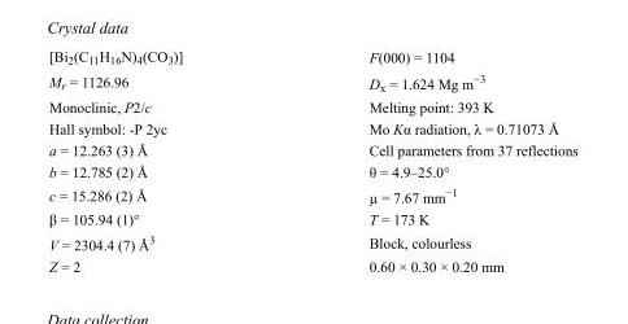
<table><tbody><tr><td>[Bi<sub>2</sub>(C<sub>11</sub>H<sub>16</sub>N)<sub>4</sub>(CO<sub>3</sub>)]</td><td>F(000) = 1104</td></tr><tr><td>M<sub>r</sub> = 1126.96</td><td>D<sub>x</sub> = 1.624 Mg m<sup>−3</sup></td></tr><tr><td>Monoclinic, P2/c</td><td>Melting point: 393 K</td></tr><tr><td>Hall symbol: -P 2yc</td><td>Mo Kα radiation, λ = 0.71073 Å</td></tr><tr><td>a = 12.263 (3) Å</td><td>Cell parameters from 37 reflections</td></tr><tr><td>b = 12.785 (2) Å</td><td>θ = 4.9–25.0°</td></tr><tr><td>c = 15.286 (2) Å</td><td>µ = 7.67 mm<sup>−1</sup></td></tr><tr><td>β = 105.94 (1)°</td><td>T = 173 K</td></tr><tr><td>V = 2304.4 (7) Å<sup>3</sup></td><td>Block, colourless</td></tr><tr><td>Z = 2</td><td>0.60 × 0.30 × 0.20 mm</td></tr></tbody></table>